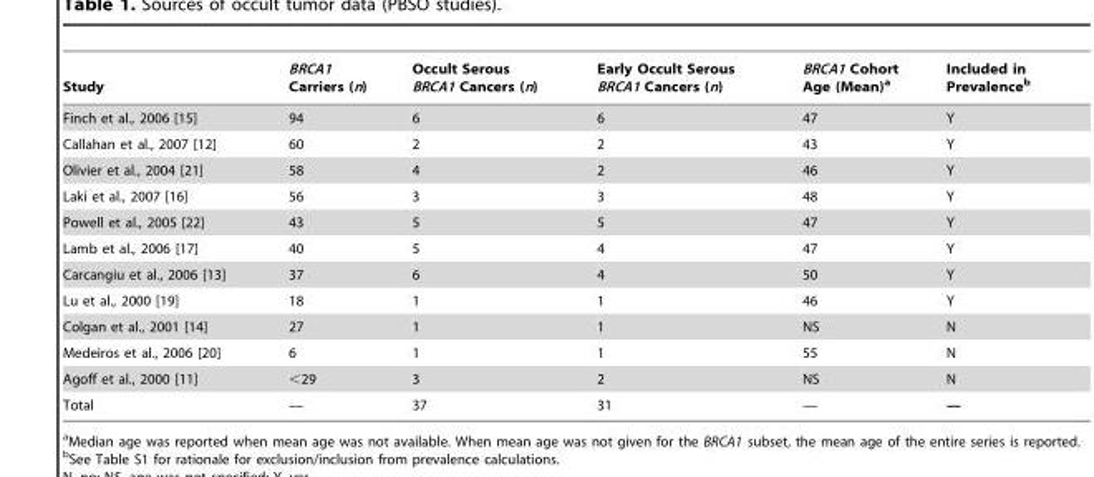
<table><thead><tr><td>Study</td><td>BRCA1 Carriers (n)</td><td>Occult Serous BRCA1 Cancers (n)</td><td>Early Occult Serous BRCA1 Cancers (n)</td><td>BRCA1 Cohort Age (Mean)<sup>a</sup></td><td>Included in Prevalence<sup>b</sup></td></tr></thead><tbody><tr><td>Finch et al., 2006 [15]</td><td>94</td><td>6</td><td>6</td><td>47</td><td>Y</td></tr><tr><td>Callahan et al., 2007 [12]</td><td>60</td><td>2</td><td>2</td><td>43</td><td>Y</td></tr><tr><td>Olivier et al., 2004 [21]</td><td>58</td><td>4</td><td>2</td><td>46</td><td>Y</td></tr><tr><td>Laki et al., 2007 [16]</td><td>56</td><td>3</td><td>3</td><td>48</td><td>Y</td></tr><tr><td>Powell et al., 2005 [22]</td><td>43</td><td>5</td><td>5</td><td>47</td><td>Y</td></tr><tr><td>Lamb et al., 2006 [17]</td><td>40</td><td>5</td><td>4</td><td>47</td><td>Y</td></tr><tr><td>Carcangiu et al., 2006 [13]</td><td>37</td><td>6</td><td>4</td><td>50</td><td>Y</td></tr><tr><td>Lu et al., 2000 [19]</td><td>18</td><td>1</td><td>1</td><td>46</td><td>Y</td></tr><tr><td>Colgan et al., 2001 [14]</td><td>27</td><td>1</td><td>1</td><td>NS</td><td>N</td></tr><tr><td>Medeiros et al., 2006 [20]</td><td>6</td><td>1</td><td>1</td><td>55</td><td>N</td></tr><tr><td>Agoff et al., 2000 [11]</td><td>&lt;29</td><td>3</td><td>2</td><td>NS</td><td>N</td></tr><tr><td>Total</td><td>—</td><td>37</td><td>31</td><td>—</td><td>—</td></tr></tbody></table>